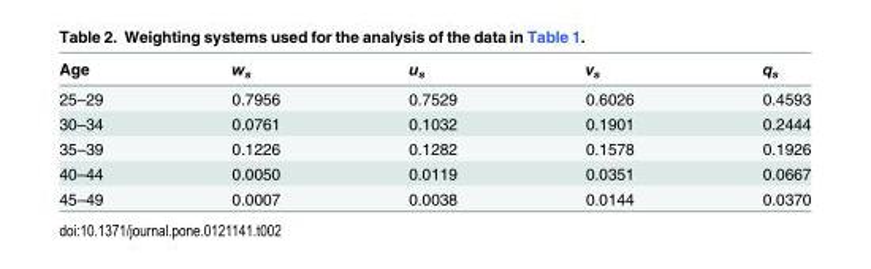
<table><thead><tr><td>Age</td><td>w<sub>s</sub></td><td>u<sub>s</sub></td><td>v<sub>s</sub></td><td>q<sub>s</sub></td></tr></thead><tbody><tr><td>25–29</td><td>0.7956</td><td>0.7529</td><td>0.6026</td><td>0.4593</td></tr><tr><td>30–34</td><td>0.0761</td><td>0.1032</td><td>0.1901</td><td>0.2444</td></tr><tr><td>35–39</td><td>0.1226</td><td>0.1282</td><td>0.1578</td><td>0.1926</td></tr><tr><td>40–44</td><td>0.0050</td><td>0.0119</td><td>0.0351</td><td>0.0667</td></tr><tr><td>45–49</td><td>0.0007</td><td>0.0038</td><td>0.0144</td><td>0.0370</td></tr></tbody></table>